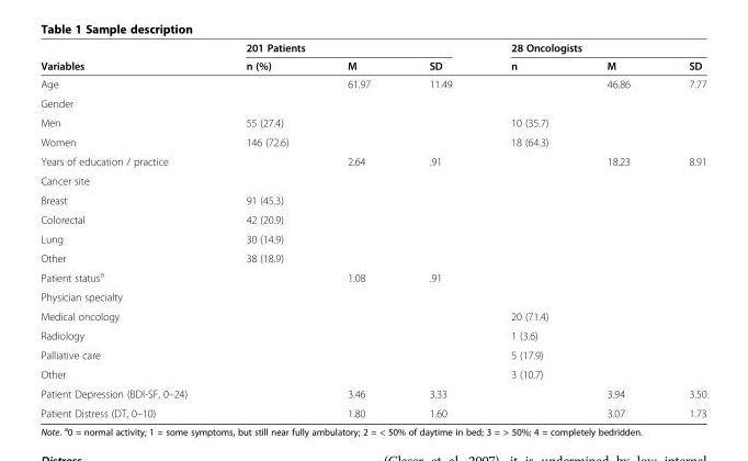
<table><thead><tr><td rowspan="2">Variables</td><td colspan="3">201 Patients</td><td colspan="3">28 Oncologists</td></tr><tr><td>n (%)</td><td>M</td><td>SD</td><td>n</td><td>M</td><td>SD</td></tr></thead><tbody><tr><td>Age</td><td></td><td>61.97</td><td>11.49</td><td></td><td>46.86</td><td>7.77</td></tr><tr><td colspan="7">Gender</td></tr><tr><td>Men</td><td>55 (27.4)</td><td></td><td></td><td>10 (35.7)</td><td></td><td></td></tr><tr><td>Women</td><td>146 (72.6)</td><td></td><td></td><td>18 (64.3)</td><td></td><td></td></tr><tr><td>Years of education / practice</td><td></td><td>2.64</td><td>.91</td><td></td><td>18.23</td><td>8.91</td></tr><tr><td colspan="7">Cancer site</td></tr><tr><td>Breast</td><td>91 (45.3)</td><td></td><td></td><td></td><td></td><td></td></tr><tr><td>Colorectal</td><td>42 (20.9)</td><td></td><td></td><td></td><td></td><td></td></tr><tr><td>Lung</td><td>30 (14.9)</td><td></td><td></td><td></td><td></td><td></td></tr><tr><td>Other</td><td>38 (18.9)</td><td></td><td></td><td></td><td></td><td></td></tr><tr><td>Patient status<sup>a</sup></td><td></td><td>1.08</td><td>.91</td><td></td><td></td><td></td></tr><tr><td colspan="7">Physician specialty</td></tr><tr><td>Medical oncology</td><td></td><td></td><td></td><td>20 (71.4)</td><td></td><td></td></tr><tr><td>Radiology</td><td></td><td></td><td></td><td>1 (3.6)</td><td></td><td></td></tr><tr><td>Palliative care</td><td></td><td></td><td></td><td>5 (17.9)</td><td></td><td></td></tr><tr><td>Other</td><td></td><td></td><td></td><td>3 (10.7)</td><td></td><td></td></tr><tr><td>Patient Depression (BDI-SF, 0–24)</td><td></td><td>3.46</td><td>3.33</td><td></td><td>3.94</td><td>3.50</td></tr><tr><td>Patient Distress (DT, 0–10)</td><td></td><td>1.80</td><td>1.60</td><td></td><td>3.07</td><td>1.73</td></tr></tbody></table>